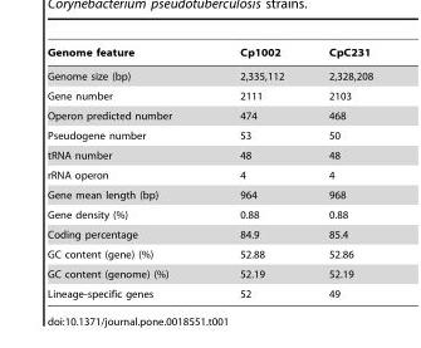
<table><thead><tr><td>Genome feature</td><td>Cp1002</td><td>CpC231</td></tr></thead><tbody><tr><td>Genome size (bp)</td><td>2,335,112</td><td>2,328,208</td></tr><tr><td>Gene number</td><td>2111</td><td>2103</td></tr><tr><td>Operon predicted number</td><td>474</td><td>468</td></tr><tr><td>Pseudogene number</td><td>53</td><td>50</td></tr><tr><td>tRNA number</td><td>48</td><td>48</td></tr><tr><td>rRNA operon</td><td>4</td><td>4</td></tr><tr><td>Gene mean length (bp)</td><td>964</td><td>968</td></tr><tr><td>Gene density (%)</td><td>0.88</td><td>0.88</td></tr><tr><td>Coding percentage</td><td>84.9</td><td>85.4</td></tr><tr><td>GC content (gene) (%)</td><td>52.88</td><td>52.86</td></tr><tr><td>GC content (genome) (%)</td><td>52.19</td><td>52.19</td></tr><tr><td>Lineage-specific genes</td><td>52</td><td>49</td></tr></tbody></table>